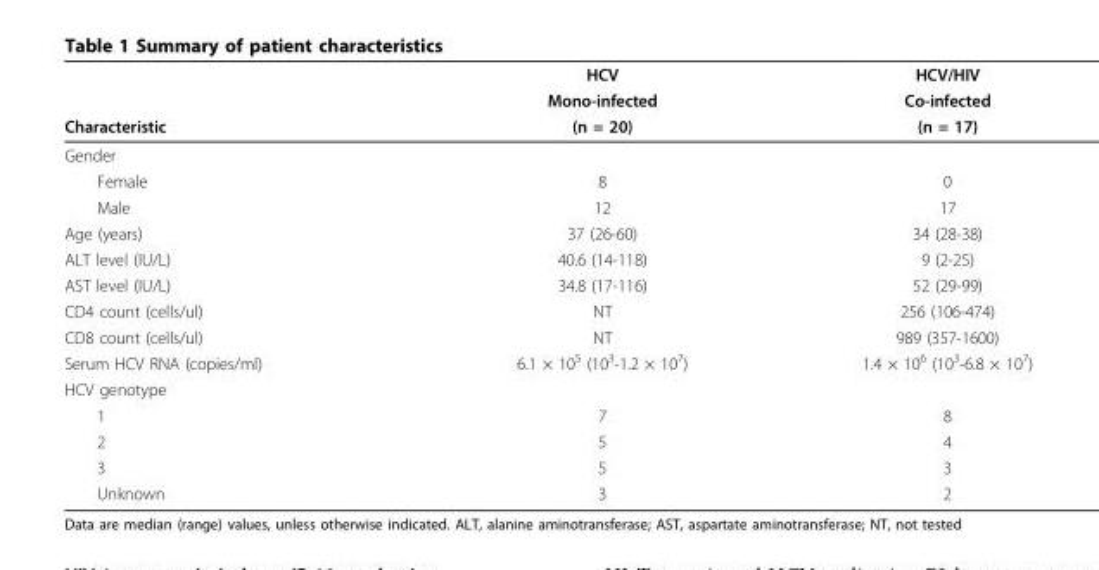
<table><thead><tr><td rowspan="3">Characteristic</td><td rowspan="3">HCV Mono-infected (n = 20)</td><td rowspan="3">HCV/HIV Co-infected (n = 17)</td></tr><tr></tr><tr></tr></thead><tbody><tr><td colspan="3">Gender</td></tr><tr><td>Female</td><td>8</td><td>0</td></tr><tr><td>Male</td><td>12</td><td>17</td></tr><tr><td>Age (years)</td><td>37 (26-60)</td><td>34 (28-38)</td></tr><tr><td>ALT level (IU/L)</td><td>40.6 (14-118)</td><td>9 (2-25)</td></tr><tr><td>AST level (IU/L)</td><td>34.8 (17-116)</td><td>52 (29-99)</td></tr><tr><td>CD4 count (cells/ul)</td><td>NT</td><td>256 (106-474)</td></tr><tr><td>CD8 count (cells/ul)</td><td>NT</td><td>989 (357-1600)</td></tr><tr><td>Serum HCV RNA (copies/ml)</td><td>6.1 × 10<sup>5</sup> (10<sup>3</sup>-1.2 × 10<sup>7</sup>)</td><td>1.4 × 10<sup>6</sup> (10<sup>3</sup>-6.8 × 10<sup>7</sup>)</td></tr><tr><td colspan="3">HCV genotype</td></tr><tr><td>1</td><td>7</td><td>8</td></tr><tr><td>2</td><td>5</td><td>4</td></tr><tr><td>3</td><td>5</td><td>3</td></tr><tr><td>Unknown</td><td>3</td><td>2</td></tr></tbody></table>